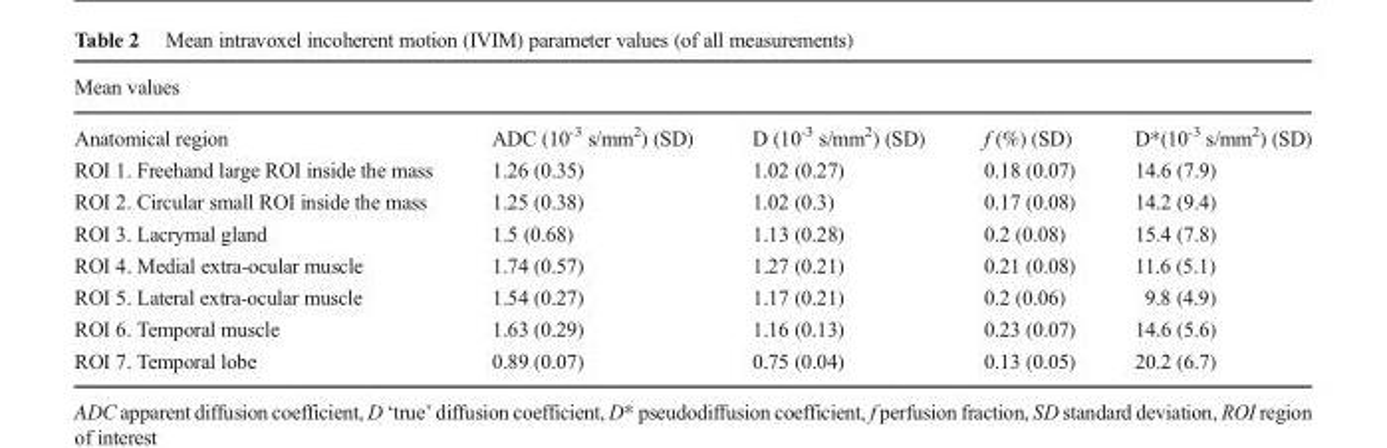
<table><thead><tr><td colspan="5">Mean values</td></tr><tr><td>Anatomical region</td><td>ADC (10<sup>-3</sup> s/mm<sup>2</sup>) (SD)</td><td>D (10<sup>-3</sup> s/mm<sup>2</sup>) (SD)</td><td>f (%) (SD)</td><td>D*(10<sup>-3</sup> s/mm<sup>2</sup>) (SD)</td></tr></thead><tbody><tr><td>ROI 1. Freehand large ROI inside the mass</td><td>1.26 (0.35)</td><td>1.02 (0.27)</td><td>0.18 (0.07)</td><td>14.6 (7.9)</td></tr><tr><td>ROI 2. Circular small ROI inside the mass</td><td>1.25 (0.38)</td><td>1.02 (0.3)</td><td>0.17 (0.08)</td><td>14.2 (9.4)</td></tr><tr><td>ROI 3. Lacrymal gland</td><td>1.5 (0.68)</td><td>1.13 (0.28)</td><td>0.2 (0.08)</td><td>15.4 (7.8)</td></tr><tr><td>ROI 4. Medial extra-ocular muscle</td><td>1.74 (0.57)</td><td>1.27 (0.21)</td><td>0.21 (0.08)</td><td>11.6 (5.1)</td></tr><tr><td>ROI 5. Lateral extra-ocular muscle</td><td>1.54 (0.27)</td><td>1.17 (0.21)</td><td>0.2 (0.06)</td><td>9.8 (4.9)</td></tr><tr><td>ROI 6. Temporal muscle</td><td>1.63 (0.29)</td><td>1.16 (0.13)</td><td>0.23 (0.07)</td><td>14.6 (5.6)</td></tr><tr><td>ROI 7. Temporal lobe</td><td>0.89 (0.07)</td><td>0.75 (0.04)</td><td>0.13 (0.05)</td><td>20.2 (6.7)</td></tr></tbody></table>